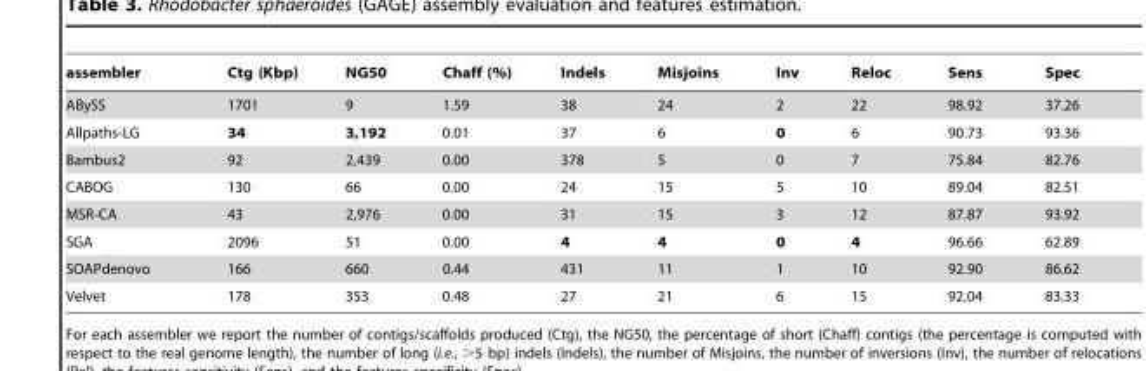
<table><thead><tr><td>assembler</td><td>Ctg (Kbp)</td><td>NG50</td><td>Chaff (%)</td><td>Indels</td><td>Misjoins</td><td>Inv</td><td>Reloc</td><td>Sens</td><td>Spec</td></tr></thead><tbody><tr><td>ABySS</td><td>1701</td><td>9</td><td>1.59</td><td>38</td><td>24</td><td>2</td><td>22</td><td>98.92</td><td>37.26</td></tr><tr><td>Allpaths-LG</td><td>34</td><td>3,192</td><td>0.01</td><td>37</td><td>6</td><td>0</td><td>6</td><td>90.73</td><td>93.36</td></tr><tr><td>Bambus2</td><td>92</td><td>2,439</td><td>0.00</td><td>378</td><td>5</td><td>0</td><td>7</td><td>75.84</td><td>82.76</td></tr><tr><td>CABOG</td><td>130</td><td>66</td><td>0.00</td><td>24</td><td>15</td><td>5</td><td>10</td><td>89.04</td><td>82.51</td></tr><tr><td>MSR-CA</td><td>43</td><td>2,976</td><td>0.00</td><td>31</td><td>15</td><td>3</td><td>12</td><td>87.87</td><td>93.92</td></tr><tr><td>SGA</td><td>2096</td><td>51</td><td>0.00</td><td>4</td><td>4</td><td>0</td><td>4</td><td>96.66</td><td>62.89</td></tr><tr><td>SOAPdenovo</td><td>166</td><td>660</td><td>0.44</td><td>431</td><td>11</td><td>1</td><td>10</td><td>92.90</td><td>86.62</td></tr><tr><td>Velvet</td><td>178</td><td>353</td><td>0.48</td><td>27</td><td>21</td><td>6</td><td>15</td><td>92.04</td><td>83.33</td></tr></tbody></table>